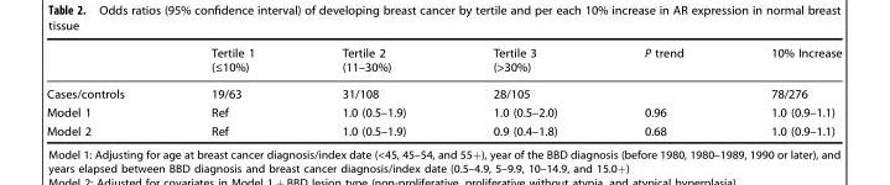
<table><thead><tr><td></td><td>Tertile 1 (≤10%)</td><td>Tertile 2 (11–30%)</td><td>Tertile 3 (&gt;30%)</td><td>P trend</td><td>10% Increase</td></tr></thead><tbody><tr><td>Cases/controls</td><td>19/63</td><td>31/108</td><td>28/105</td><td></td><td>78/276</td></tr><tr><td>Model 1</td><td>Ref</td><td>1.0 (0.5–1.9)</td><td>1.0 (0.5–2.0)</td><td>0.96</td><td>1.0 (0.9–1.1)</td></tr><tr><td>Model 2</td><td>Ref</td><td>1.0 (0.5–1.9)</td><td>0.9 (0.4–1.8)</td><td>0.68</td><td>1.0 (0.9–1.1)</td></tr></tbody></table>